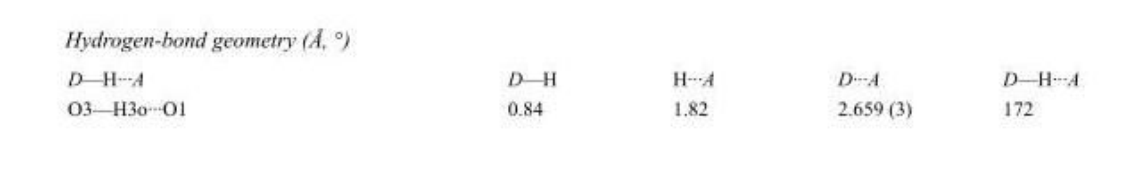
<table><tbody><tr><td>D—H···A</td><td>D—H</td><td>H···A</td><td>D···A</td><td>D—H···A</td></tr><tr><td>O3—H3o···O1</td><td>0.84</td><td>1.82</td><td>2.659 (3)</td><td>172</td></tr></tbody></table>